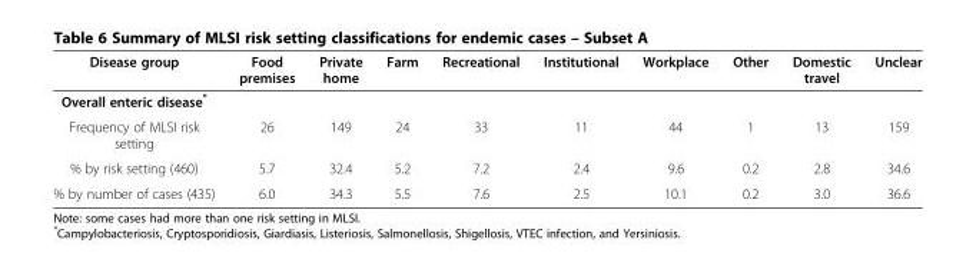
<table><thead><tr><td>Disease group</td><td>Food premises</td><td>Private home</td><td>Farm</td><td>Recreational</td><td>Institutional</td><td>Workplace</td><td>Other</td><td>Domestic travel</td><td>Unclear</td></tr></thead><tbody><tr><td colspan="10">Overall enteric disease*</td></tr><tr><td>Frequency of MLSI risk setting</td><td>26</td><td>149</td><td>24</td><td>33</td><td>11</td><td>44</td><td>1</td><td>13</td><td>159</td></tr><tr><td>% by risk setting (460)</td><td>5.7</td><td>32.4</td><td>5.2</td><td>7.2</td><td>2.4</td><td>9.6</td><td>0.2</td><td>2.8</td><td>34.6</td></tr><tr><td>% by number of cases (435)</td><td>6.0</td><td>34.3</td><td>5.5</td><td>7.6</td><td>2.5</td><td>10.1</td><td>0.2</td><td>3.0</td><td>36.6</td></tr></tbody></table>